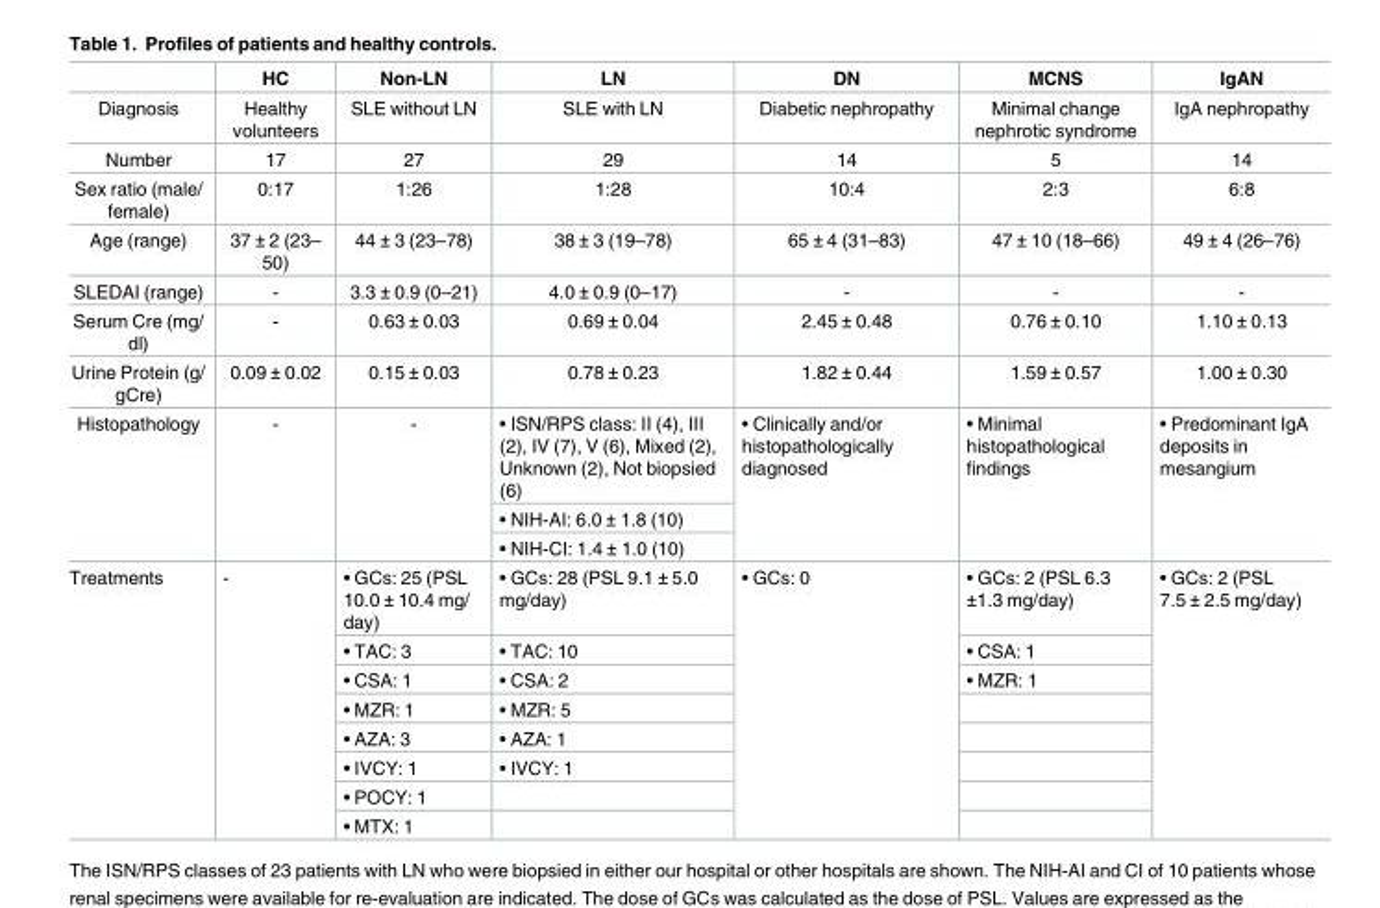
<table><thead><tr><td></td><td>HC</td><td>Non-LN</td><td>LN</td><td>DN</td><td>MCNS</td><td>IgAN</td></tr></thead><tbody><tr><td>Diagnosis</td><td>Healthy volunteers</td><td>SLE without LN</td><td>SLE with LN</td><td>Diabetic nephropathy</td><td>Minimal change nephrotic syndrome</td><td>IgA nephropathy</td></tr><tr><td>Number</td><td>17</td><td>27</td><td>29</td><td>14</td><td>5</td><td>14</td></tr><tr><td>Sex ratio (male/ female)</td><td>0:17</td><td>1:26</td><td>1:28</td><td>10:4</td><td>2:3</td><td>6:8</td></tr><tr><td>Age (range)</td><td>37 ± 2 (23– 50)</td><td>44 ± 3 (23–78)</td><td>38 ± 3 (19–78)</td><td>65 ± 4 (31–83)</td><td>47 ± 10 (18–66)</td><td>49 ± 4 (26–76)</td></tr><tr><td>SLEDAI (range)</td><td>-</td><td>3.3 ± 0.9 (0–21)</td><td>4.0 ± 0.9 (0–17)</td><td>-</td><td>-</td><td>-</td></tr><tr><td>Serum Cre (mg/ dl)</td><td>-</td><td>0.63 ± 0.03</td><td>0.69 ± 0.04</td><td>2.45 ± 0.48</td><td>0.76 ± 0.10</td><td>1.10 ± 0.13</td></tr><tr><td>Urine Protein (g/ gCre)</td><td>0.09 ± 0.02</td><td>0.15 ± 0.03</td><td>0.78 ± 0.23</td><td>1.82 ± 0.44</td><td>1.59 ± 0.57</td><td>1.00 ± 0.30</td></tr><tr><td rowspan="3">Histopathology</td><td rowspan="3">-</td><td rowspan="3">-</td><td>• ISN/RPS class: II (4), III (2), IV (7), V (6), Mixed (2), Unknown (2), Not biopsied (6)</td><td rowspan="3">• Clinically and/or histopathologically diagnosed</td><td rowspan="3">• Minimal histopathological findings</td><td rowspan="3">• Predominant IgA deposits in mesangium</td></tr><tr><td>• NIH-AI: 6.0 ± 1.8 (10)</td></tr><tr><td>• NIH-CI: 1.4 ± 1.0 (10)</td></tr><tr><td rowspan="8">Treatments</td><td rowspan="8">-</td><td>• GCs: 25 (PSL 10.0 ± 10.4 mg/ day)</td><td>• GCs: 28 (PSL 9.1 ± 5.0 mg/day)</td><td rowspan="8">• GCs: 0</td><td>• GCs: 2 (PSL 6.3 ±1.3 mg/day)</td><td rowspan="8">• GCs: 2 (PSL 7.5 ± 2.5 mg/day)</td></tr><tr><td>• TAC: 3</td><td>• TAC: 10</td><td>• CSA: 1</td></tr><tr><td>• CSA: 1</td><td>• CSA: 2</td><td>• MZR: 1</td></tr><tr><td>• MZR: 1</td><td>• MZR: 5</td><td></td></tr><tr><td>• AZA: 3</td><td>• AZA: 1</td><td></td></tr><tr><td>• IVCY: 1</td><td>• IVCY: 1</td><td></td></tr><tr><td>• POCY: 1</td><td></td><td></td></tr><tr><td>• MTX: 1</td><td></td><td></td></tr></tbody></table>